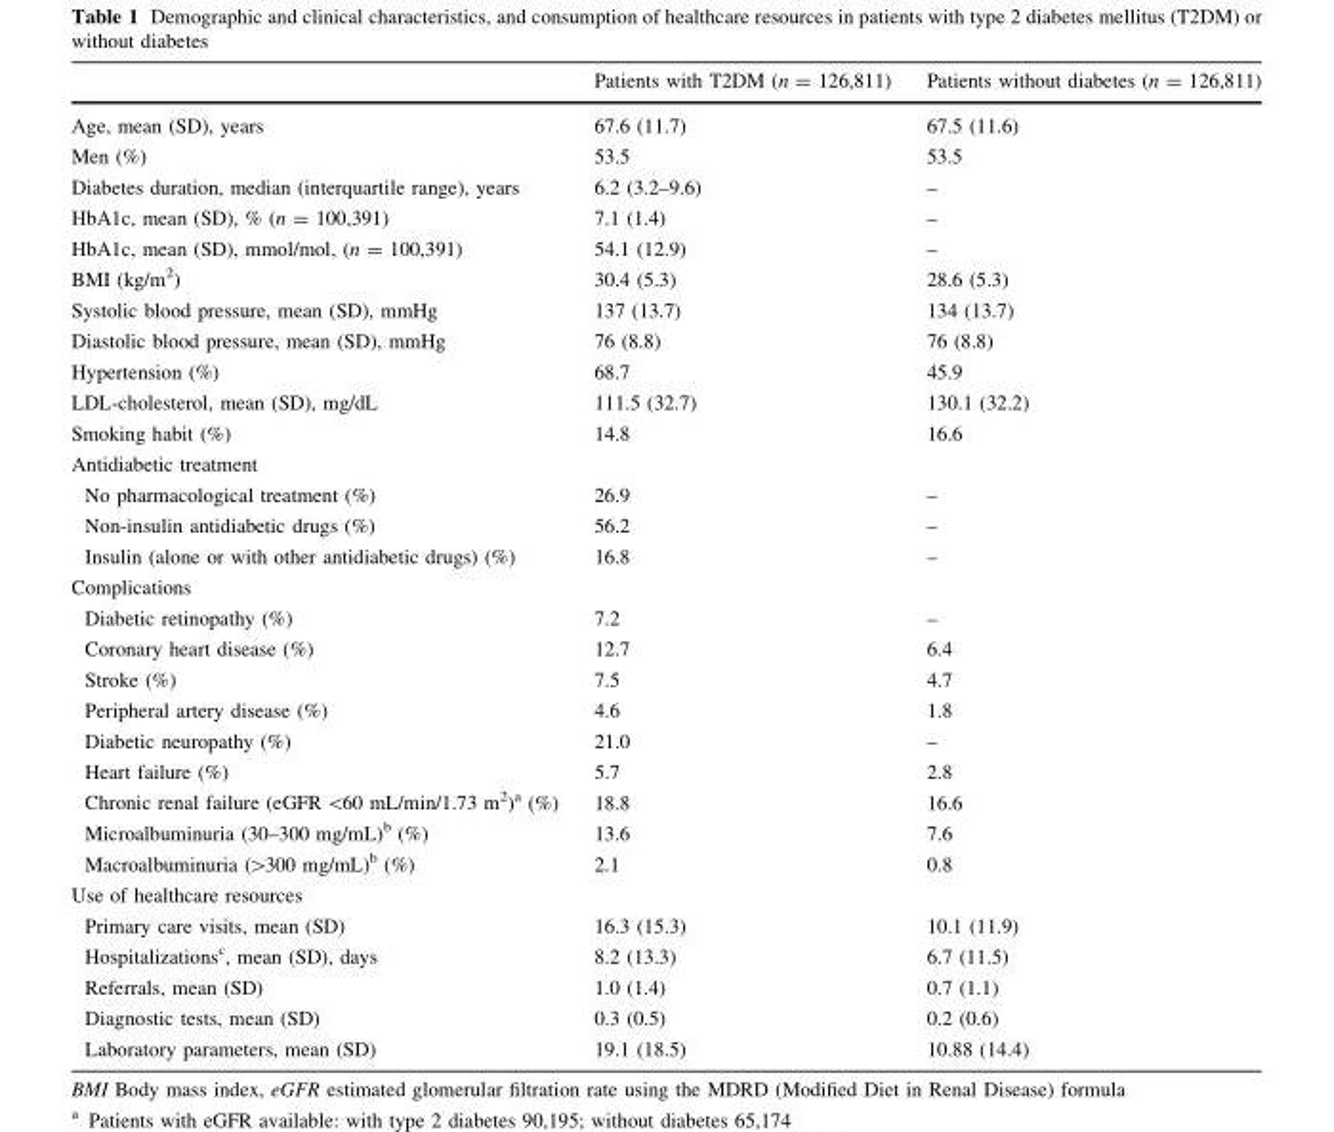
<table><thead><tr><td></td><td>Patients with T2DM (n = 126,811)</td><td>Patients without diabetes (n = 126,811)</td></tr></thead><tbody><tr><td>Age, mean (SD), years</td><td>67.6 (11.7)</td><td>67.5 (11.6)</td></tr><tr><td>Men (%)</td><td>53.5</td><td>53.5</td></tr><tr><td>Diabetes duration, median (interquartile range), years</td><td>6.2 (3.2–9.6)</td><td>–</td></tr><tr><td>HbA1c, mean (SD), % (n = 100,391)</td><td>7.1 (1.4)</td><td>–</td></tr><tr><td>HbA1c, mean (SD), mmol/mol, (n = 100,391)</td><td>54.1 (12.9)</td><td>–</td></tr><tr><td>BMI (kg/m<sup>2</sup>)</td><td>30.4 (5.3)</td><td>28.6 (5.3)</td></tr><tr><td>Systolic blood pressure, mean (SD), mmHg</td><td>137 (13.7)</td><td>134 (13.7)</td></tr><tr><td>Diastolic blood pressure, mean (SD), mmHg</td><td>76 (8.8)</td><td>76 (8.8)</td></tr><tr><td>Hypertension (%)</td><td>68.7</td><td>45.9</td></tr><tr><td>LDL-cholesterol, mean (SD), mg/dL</td><td>111.5 (32.7)</td><td>130.1 (32.2)</td></tr><tr><td>Smoking habit (%)</td><td>14.8</td><td>16.6</td></tr><tr><td colspan="3">Antidiabetic treatment</td></tr><tr><td>No pharmacological treatment (%)</td><td>26.9</td><td>–</td></tr><tr><td>Non-insulin antidiabetic drugs (%)</td><td>56.2</td><td>–</td></tr><tr><td>Insulin (alone or with other antidiabetic drugs) (%)</td><td>16.8</td><td>–</td></tr><tr><td colspan="3">Complications</td></tr><tr><td>Diabetic retinopathy (%)</td><td>7.2</td><td>–</td></tr><tr><td>Coronary heart disease (%)</td><td>12.7</td><td>6.4</td></tr><tr><td>Stroke (%)</td><td>7.5</td><td>4.7</td></tr><tr><td>Peripheral artery disease (%)</td><td>4.6</td><td>1.8</td></tr><tr><td>Diabetic neuropathy (%)</td><td>21.0</td><td>–</td></tr><tr><td>Heart failure (%)</td><td>5.7</td><td>2.8</td></tr><tr><td>Chronic renal failure (eGFR &lt;60 mL/min/1.73 m<sup>2</sup>)<sup>a</sup> (%)</td><td>18.8</td><td>16.6</td></tr><tr><td>Microalbuminuria (30–300 mg/mL)<sup>b</sup> (%)</td><td>13.6</td><td>7.6</td></tr><tr><td>Macroalbuminuria (&gt;300 mg/mL)<sup>b</sup> (%)</td><td>2.1</td><td>0.8</td></tr><tr><td colspan="3">Use of healthcare resources</td></tr><tr><td>Primary care visits, mean (SD)</td><td>16.3 (15.3)</td><td>10.1 (11.9)</td></tr><tr><td>Hospitalizations<sup>c</sup>, mean (SD), days</td><td>8.2 (13.3)</td><td>6.7 (11.5)</td></tr><tr><td>Referrals, mean (SD)</td><td>1.0 (1.4)</td><td>0.7 (1.1)</td></tr><tr><td>Diagnostic tests, mean (SD)</td><td>0.3 (0.5)</td><td>0.2 (0.6)</td></tr><tr><td>Laboratory parameters, mean (SD)</td><td>19.1 (18.5)</td><td>10.88 (14.4)</td></tr></tbody></table>